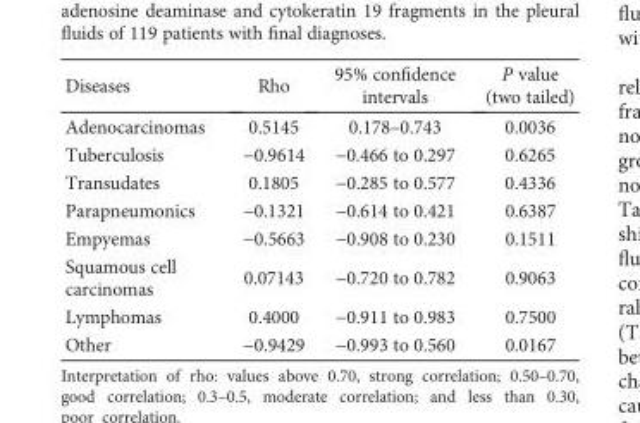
<table><thead><tr><td>Diseases</td><td>Rho</td><td>95% confidence intervals</td><td>P value (two tailed)</td></tr></thead><tbody><tr><td>Adenocarcinomas</td><td>0.5145</td><td>0.178–0.743</td><td>0.0036</td></tr><tr><td>Tuberculosis</td><td>−0.9614</td><td>−0.466 to 0.297</td><td>0.6265</td></tr><tr><td>Transudates</td><td>0.1805</td><td>−0.285 to 0.577</td><td>0.4336</td></tr><tr><td>Parapneumonics</td><td>−0.1321</td><td>−0.614 to 0.421</td><td>0.6387</td></tr><tr><td>Empyemas</td><td>−0.5663</td><td>−0.908 to 0.230</td><td>0.1511</td></tr><tr><td>Squamous cell carcinomas</td><td>0.07143</td><td>−0.720 to 0.782</td><td>0.9063</td></tr><tr><td>Lymphomas</td><td>0.4000</td><td>−0.911 to 0.983</td><td>0.7500</td></tr><tr><td>Other</td><td>−0.9429</td><td>−0.993 to 0.560</td><td>0.0167</td></tr></tbody></table>